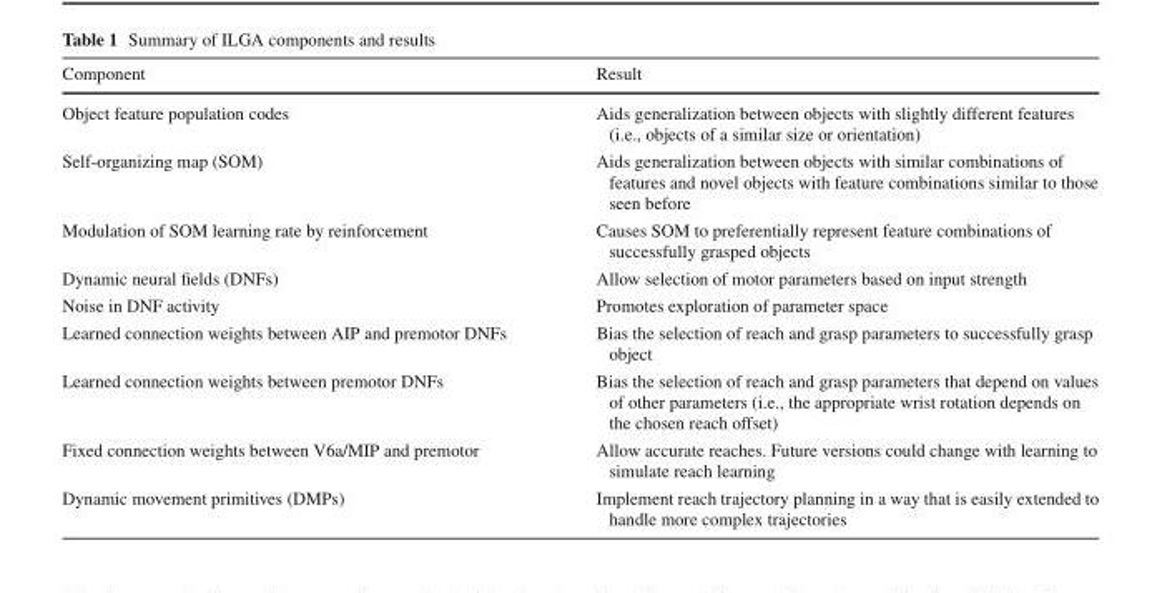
<table><thead><tr><td>Component</td><td>Result</td></tr></thead><tbody><tr><td>Object feature population codes</td><td>Aids generalization between objects with slightly different features (i.e., objects of a similar size or orientation)</td></tr><tr><td>Self-organizing map (SOM)</td><td>Aids generalization between objects with similar combinations of features and novel objects with feature combinations similar to those seen before</td></tr><tr><td>Modulation of SOM learning rate by reinforcement</td><td>Causes SOM to preferentially represent feature combinations of successfully grasped objects</td></tr><tr><td>Dynamic neural fields (DNFs)</td><td>Allow selection of motor parameters based on input strength</td></tr><tr><td>Noise in DNF activity</td><td>Promotes exploration of parameter space</td></tr><tr><td>Learned connection weights between AIP and premotor DNFs</td><td>Bias the selection of reach and grasp parameters to successfully grasp object</td></tr><tr><td>Learned connection weights between premotor DNFs</td><td>Bias the selection of reach and grasp parameters that depend on values of other parameters (i.e., the appropriate wrist rotation depends on the chosen reach offset)</td></tr><tr><td>Fixed connection weights between V6a/MIP and premotor</td><td>Allow accurate reaches. Future versions could change with learning to simulate reach learning</td></tr><tr><td>Dynamic movement primitives (DMPs)</td><td>Implement reach trajectory planning in a way that is easily extended to handle more complex trajectories</td></tr></tbody></table>